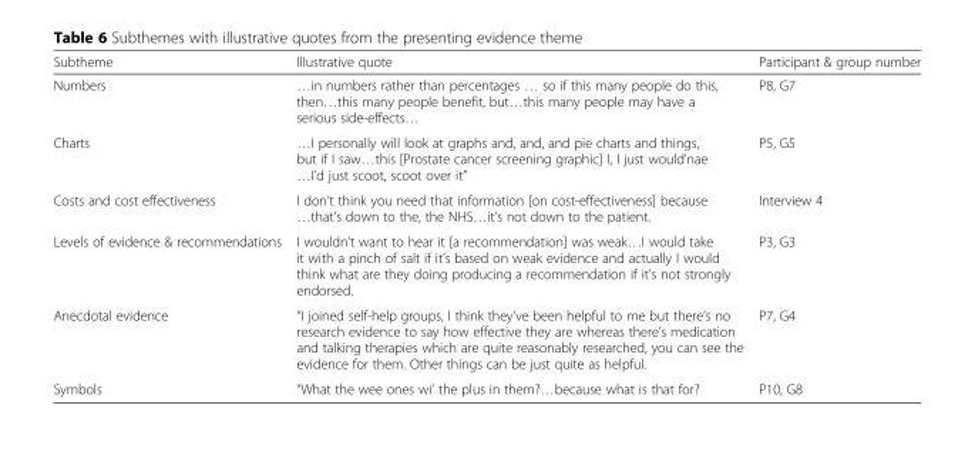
<table><thead><tr><td>Subtheme</td><td>Illustrative quote</td><td>Participant &amp; group number</td></tr></thead><tbody><tr><td>Numbers</td><td>…in numbers rather than percentages … so if this many people do this, then…this many people benefit, but…this many people may have a serious side-effects…</td><td>P8, G7</td></tr><tr><td>Charts</td><td>…I personally will look at graphs and, and, and pie charts and things, but if I saw…this [Prostate cancer screening graphic] I, I just would’nae …I’d just scoot, scoot over it”</td><td>P5, G5</td></tr><tr><td>Costs and cost effectiveness</td><td>I don’t think you need that information [on cost-effectiveness] because …that’s down to the, the NHS…it’s not down to the patient.</td><td>Interview 4</td></tr><tr><td>Levels of evidence &amp; recommendations</td><td>I wouldn’t want to hear it [a recommendation] was weak…I would take it with a pinch of salt if it’s based on weak evidence and actually I would think what are they doing producing a recommendation if it’s not strongly endorsed.</td><td>P3, G3</td></tr><tr><td>Anecdotal evidence</td><td>“I joined self-help groups, I think they’ve been helpful to me but there’s no research evidence to say how effective they are whereas there’s medication and talking therapies which are quite reasonably researched, you can see the evidence for them. Other things can be just quite as helpful.</td><td>P7, G4</td></tr><tr><td>Symbols</td><td>“What the wee ones wi’ the plus in them?…because what is that for?</td><td>P10, G8</td></tr></tbody></table>